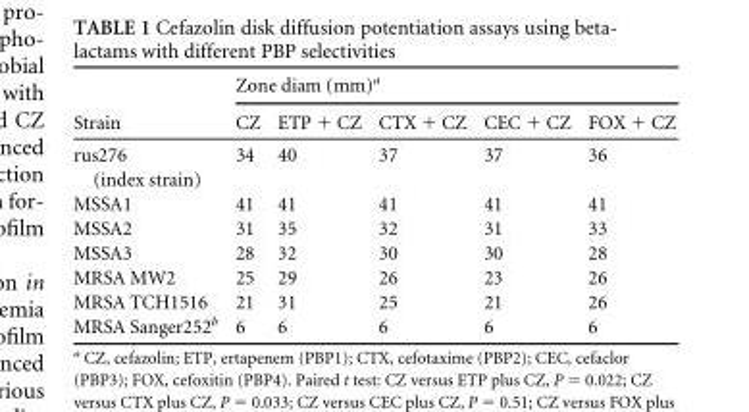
<table><thead><tr><td rowspan="2">Strain</td><td colspan="5">Zone diam (mm)<sup>a</sup></td></tr><tr><td>CZ</td><td>ETP + CZ</td><td>CTX + CZ</td><td>CEC + CZ</td><td>FOX + CZ</td></tr></thead><tbody><tr><td>rus276 (index strain)</td><td>34</td><td>40</td><td>37</td><td>37</td><td>36</td></tr><tr><td>MSSA1</td><td>41</td><td>41</td><td>41</td><td>41</td><td>41</td></tr><tr><td>MSSA2</td><td>31</td><td>35</td><td>32</td><td>31</td><td>33</td></tr><tr><td>MSSA3</td><td>28</td><td>32</td><td>30</td><td>30</td><td>28</td></tr><tr><td>MRSA MW2</td><td>25</td><td>29</td><td>26</td><td>23</td><td>26</td></tr><tr><td>MRSA TCH1516</td><td>21</td><td>31</td><td>25</td><td>21</td><td>26</td></tr><tr><td>MRSA Sanger252<sup>b</sup></td><td>6</td><td>6</td><td>6</td><td>6</td><td>6</td></tr></tbody></table>